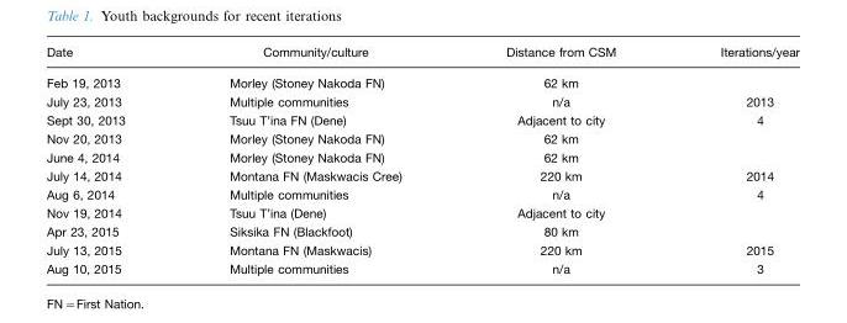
<table><thead><tr><td>Date</td><td>Community/culture</td><td>Distance from CSM</td><td>Iterations/year</td></tr></thead><tbody><tr><td>Feb 19, 2013</td><td>Morley (Stoney Nakoda FN)</td><td>62 km</td><td></td></tr><tr><td>July 23, 2013</td><td>Multiple communities</td><td>n/a</td><td>2013</td></tr><tr><td>Sept 30, 2013</td><td>Tsuu T’ina FN (Dene)</td><td>Adjacent to city</td><td>4</td></tr><tr><td>Nov 20, 2013</td><td>Morley (Stoney Nakoda FN)</td><td>62 km</td><td></td></tr><tr><td>June 4, 2014</td><td>Morley (Stoney Nakoda FN)</td><td>62 km</td><td></td></tr><tr><td>July 14, 2014</td><td>Montana FN (Maskwacis Cree)</td><td>220 km</td><td>2014</td></tr><tr><td>Aug 6, 2014</td><td>Multiple communities</td><td>n/a</td><td>4</td></tr><tr><td>Nov 19, 2014</td><td>Tsuu T’ina (Dene)</td><td>Adjacent to city</td><td></td></tr><tr><td>Apr 23, 2015</td><td>Siksika FN (Blackfoot)</td><td>80 km</td><td></td></tr><tr><td>July 13, 2015</td><td>Montana FN (Maskwacis)</td><td>220 km</td><td>2015</td></tr><tr><td>Aug 10, 2015</td><td>Multiple communities</td><td>n/a</td><td>3</td></tr></tbody></table>